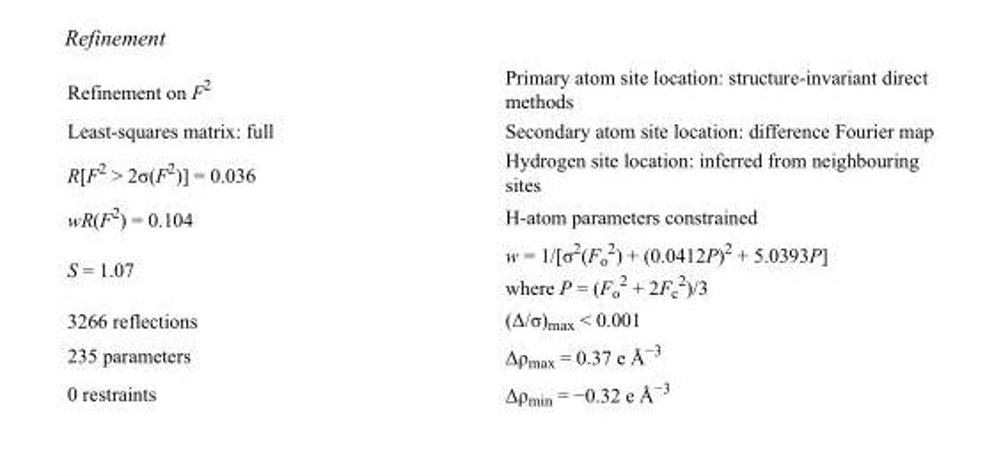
<table><tbody><tr><td>Refinement on F<sup>2</sup></td><td>Primary atom site location: structure-invariant direct methods</td></tr><tr><td>Least-squares matrix: full</td><td>Secondary atom site location: difference Fourier map</td></tr><tr><td>R[F<sup>2</sup> &gt; 2σ(F<sup>2</sup>)] = 0.036</td><td>Hydrogen site location: inferred from neighbouring sites</td></tr><tr><td>wR(F<sup>2</sup>) = 0.104</td><td>H-atom parameters constrained</td></tr><tr><td>S = 1.07</td><td>w = 1/[σ<sup>2</sup>(F<sub>o</sub> <sup>2</sup>) + (0.0412P)<sup>2</sup> + 5.0393P] where P = (F<sub>o</sub> <sup>2</sup> + 2F<sub>c</sub> <sup>2</sup>)/3</td></tr><tr><td>3266 reflections</td><td>(Δ/σ)<sub>max</sub> &lt; 0.001</td></tr><tr><td>235 parameters</td><td>Δρ<sub>max</sub> = 0.37 e Å<sup>−3</sup></td></tr><tr><td>0 restraints</td><td>Δρ<sub>min</sub> = −0.32 e Å<sup>−3</sup></td></tr></tbody></table>